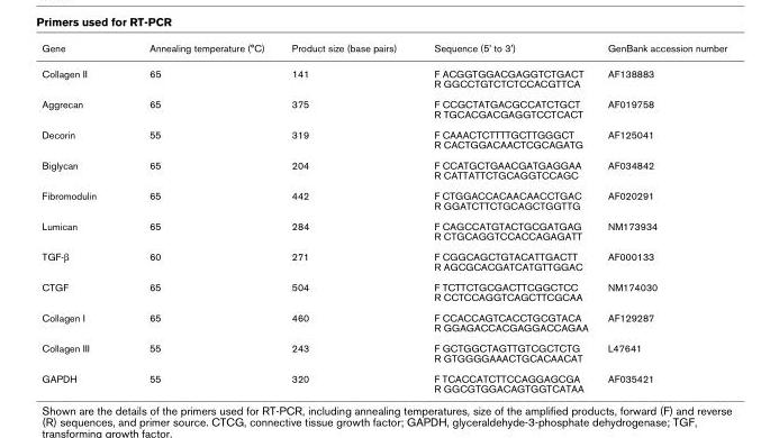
<table><thead><tr><td>Gene</td><td>Annealing temperature (°C)</td><td>Product size (base pairs)</td><td>Sequence (5&#x27; to 3&#x27;)</td><td>GenBank accession number</td></tr></thead><tbody><tr><td>Collagen II</td><td>65</td><td>141</td><td>F ACGGTGGACGAGGTCTGACT R GGCCTGTCTCTCCACGTTCA</td><td>AF138883</td></tr><tr><td>Aggrecan</td><td>65</td><td>375</td><td>F CCGCTATGACGCCATCTGCT R TGCACGACGAGGTCCTCACT</td><td>AF019758</td></tr><tr><td>Decorin</td><td>55</td><td>319</td><td>F CAAACTCTTTTGCTTGGGCT R CACTGGACAACTCGCAGATG</td><td>AF125041</td></tr><tr><td>Biglycan</td><td>65</td><td>204</td><td>F CCATGCTGAACGATGAGGAA R CATTATTCTGCAGGTCCAGC</td><td>AF034842</td></tr><tr><td>Fibromodulin</td><td>65</td><td>442</td><td>F CTGGACCACAACAACCTGAC R GGATCTTCTGCAGCTGGTTG</td><td>AF020291</td></tr><tr><td>Lumican</td><td>65</td><td>284</td><td>F CAGCCATGTACTGCGATGAG R CTGCAGGTCCACCAGAGATT</td><td>NM173934</td></tr><tr><td>TGF-β</td><td>60</td><td>271</td><td>F CGGCAGCTGTACATTGACTT R AGCGCACGATCATGTTGGAC</td><td>AF000133</td></tr><tr><td>CTGF</td><td>65</td><td>504</td><td>F TCTTCTGCGACTTCGGCTCC R CCTCCAGGTCAGCTTCGCAA</td><td>NM174030</td></tr><tr><td>Collagen I</td><td>65</td><td>460</td><td>F CCACCAGTCACCTGCGTACA R GGAGACCACGAGGACCAGAA</td><td>AF129287</td></tr><tr><td>Collagen III</td><td>55</td><td>243</td><td>F GCTGGCTAGTTGTCGCTCTG R GTGGGGAAACTGCACAACAT</td><td>L47641</td></tr><tr><td>GAPDH</td><td>55</td><td>320</td><td>F TCACCATCTTCCAGGAGCGA R GGCGTGGACAGTGGTCATAA</td><td>AF035421</td></tr></tbody></table>